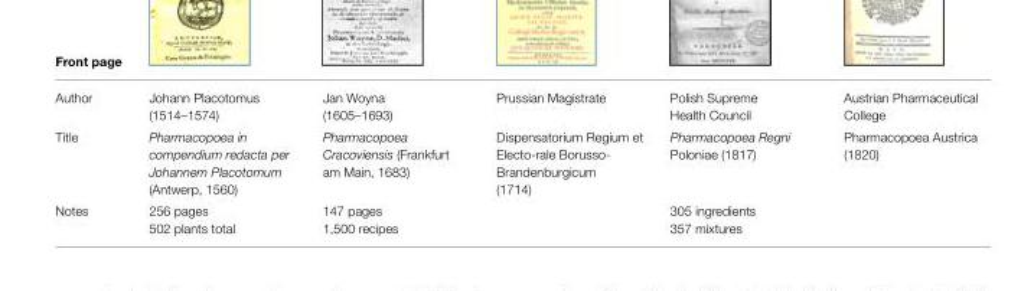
<table><thead><tr><td>Front page</td><td></td><td></td><td></td><td></td><td></td></tr></thead><tbody><tr><td>Author</td><td>Johann Placotomus (1514–1574)</td><td>Jan Woyna (1605–1693)</td><td>Prussian Magistrate</td><td>Polish Supreme Health Council</td><td>Austrian Pharmaceutical College</td></tr><tr><td>Title</td><td>Pharmacopoea in compendium redacta per Johannem Placotomum (Antwerp, 1560)</td><td>Pharmacopoea Cracoviensis (Frankfurt am Main, 1683)</td><td>Dispensatorium Regium et Electo-rale Borusso- Brandenburgicum (1714)</td><td>Pharmacopoea Regni Poloniae (1817)</td><td>Pharmacopoea Austrica (1820)</td></tr><tr><td>Notes</td><td>256 pages 502 plants total</td><td>147 pages 1,500 recipes</td><td></td><td>305 ingredients 357 mixtures</td><td></td></tr></tbody></table>